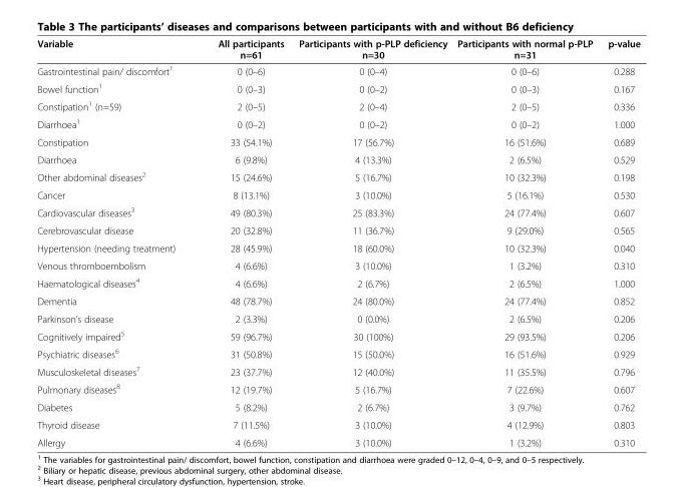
<table><thead><tr><td>Variable</td><td>All participants n=61</td><td>Participants with p-PLP deficiency n=30</td><td>Participants with normal p-PLP n=31</td><td>p-value</td></tr></thead><tbody><tr><td>Gastrointestinal pain/ discomfort<sup>1</sup></td><td>0 (0–6)</td><td>0 (0–4)</td><td>0 (0–6)</td><td>0.288</td></tr><tr><td>Bowel function<sup>1</sup></td><td>0 (0–3)</td><td>0 (0–2)</td><td>0 (0–3)</td><td>0.167</td></tr><tr><td>Constipation<sup>1</sup> (n=59)</td><td>2 (0–5)</td><td>2 (0–4)</td><td>2 (0–5)</td><td>0.336</td></tr><tr><td>Diarrhoea<sup>1</sup></td><td>0 (0–2)</td><td>0 (0–2)</td><td>0 (0–2)</td><td>1.000</td></tr><tr><td>Constipation</td><td>33 (54.1%)</td><td>17 (56.7%)</td><td>16 (51.6%)</td><td>0.689</td></tr><tr><td>Diarrhoea</td><td>6 (9.8%)</td><td>4 (13.3%)</td><td>2 (6.5%)</td><td>0.529</td></tr><tr><td>Other abdominal diseases<sup>2</sup></td><td>15 (24.6%)</td><td>5 (16.7%)</td><td>10 (32.3%)</td><td>0.198</td></tr><tr><td>Cancer</td><td>8 (13.1%)</td><td>3 (10.0%)</td><td>5 (16.1%)</td><td>0.530</td></tr><tr><td>Cardiovascular diseases<sup>3</sup></td><td>49 (80.3%)</td><td>25 (83.3%)</td><td>24 (77.4%)</td><td>0.607</td></tr><tr><td>Cerebrovascular disease</td><td>20 (32.8%)</td><td>11 (36.7%)</td><td>9 (29.0%)</td><td>0.565</td></tr><tr><td>Hypertension (needing treatment)</td><td>28 (45.9%)</td><td>18 (60.0%)</td><td>10 (32.3%)</td><td>0.040</td></tr><tr><td>Venous thromboembolism</td><td>4 (6.6%)</td><td>3 (10.0%)</td><td>1 (3.2%)</td><td>0.310</td></tr><tr><td>Haematological diseases<sup>4</sup></td><td>4 (6.6%)</td><td>2 (6.7%)</td><td>2 (6.5%)</td><td>1.000</td></tr><tr><td>Dementia</td><td>48 (78.7%)</td><td>24 (80.0%)</td><td>24 (77.4%)</td><td>0.852</td></tr><tr><td>Parkinson’s disease</td><td>2 (3.3%)</td><td>0 (0.0%)</td><td>2 (6.5%)</td><td>0.206</td></tr><tr><td>Cognitively impaired<sup>5</sup></td><td>59 (96.7%)</td><td>30 (100%)</td><td>29 (93.5%)</td><td>0.206</td></tr><tr><td>Psychiatric diseases<sup>6</sup></td><td>31 (50.8%)</td><td>15 (50.0%)</td><td>16 (51.6%)</td><td>0.929</td></tr><tr><td>Musculoskeletal diseases<sup>7</sup></td><td>23 (37.7%)</td><td>12 (40.0%)</td><td>11 (35.5%)</td><td>0.796</td></tr><tr><td>Pulmonary diseases<sup>8</sup></td><td>12 (19.7%)</td><td>5 (16.7%)</td><td>7 (22.6%)</td><td>0.607</td></tr><tr><td>Diabetes</td><td>5 (8.2%)</td><td>2 (6.7%)</td><td>3 (9.7%)</td><td>0.762</td></tr><tr><td>Thyroid disease</td><td>7 (11.5%)</td><td>3 (10.0%)</td><td>4 (12.9%)</td><td>0.803</td></tr><tr><td>Allergy</td><td>4 (6.6%)</td><td>3 (10.0%)</td><td>1 (3.2%)</td><td>0.310</td></tr></tbody></table>